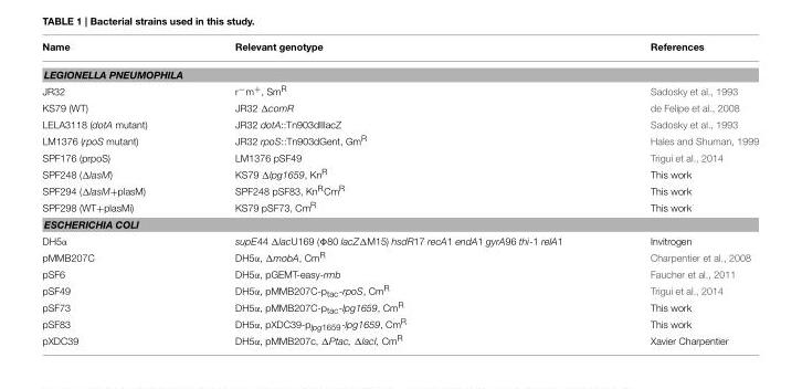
<table><thead><tr><td>Name</td><td>Relevant genotype</td><td>References</td></tr></thead><tbody><tr><td colspan="3">LEGIONELLA PNEUMOPHILA</td></tr><tr><td>JR32</td><td>r<sup>−</sup>m<sup>+</sup>, Sm<sup>R</sup></td><td>Sadosky et al., 1993</td></tr><tr><td>KS79 (WT)</td><td>JR32 ΔcomR</td><td>de Felipe et al., 2008</td></tr><tr><td>LELA3118 (dotA mutant)</td><td>JR32 dotA::Tn903dIIlacZ</td><td>Sadosky et al., 1993</td></tr><tr><td>LM1376 (rpoS mutant)</td><td>JR32 rpoS::Tn903dGent, Gm<sup>R</sup></td><td>Hales and Shuman, 1999</td></tr><tr><td>SPF176 (prpoS)</td><td>LM1376 pSF49</td><td>Trigui et al., 2014</td></tr><tr><td>SPF248 (ΔlasM)</td><td>KS79 Δlpg1659, Kn<sup>R</sup></td><td>This work</td></tr><tr><td>SPF294 (ΔlasM+plasM)</td><td>SPF248 pSF83, Kn<sup>R</sup>Cm<sup>R</sup></td><td>This work</td></tr><tr><td>SPF298 (WT+plasMi)</td><td>KS79 pSF73, Cm<sup>R</sup></td><td>This work</td></tr><tr><td colspan="3">ESCHERICHIA COLI</td></tr><tr><td>DH5α</td><td>supE44 ΔlacU169 (Φ80 lacZΔM15) hsdR17 recA1 endA1 gyrA96 thi-1 relA1</td><td>Invitrogen</td></tr><tr><td>pMMB207C</td><td>DH5α, ΔmobA, Cm<sup>R</sup></td><td>Charpentier et al., 2008</td></tr><tr><td>pSF6</td><td>DH5α, pGEMT-easy-rrnb</td><td>Faucher et al., 2011</td></tr><tr><td>pSF49</td><td>DH5α, pMMB207C-p<sub>tac</sub>-rpoS, Cm<sup>R</sup></td><td>Trigui et al., 2014</td></tr><tr><td>pSF73</td><td>DH5α, pMMB207C-p<sub>tac</sub>-lpg1659, Cm<sup>R</sup></td><td>This work</td></tr><tr><td>pSF83</td><td>DH5α, pXDC39-p<sub>lpg</sub>1659-lpg1659, Cm<sup>R</sup></td><td>This work</td></tr><tr><td>pXDC39</td><td>DH5α, pMMB207c, ΔPtac, ΔlacI, Cm<sup>R</sup></td><td>Xavier Charpentier</td></tr></tbody></table>